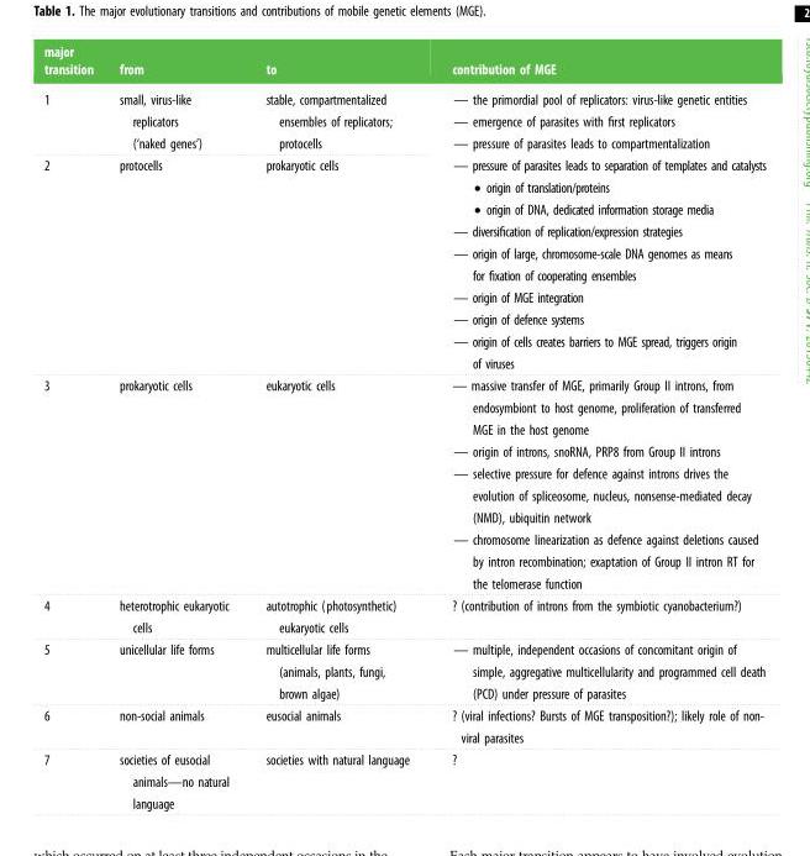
<table><thead><tr><td>major transition</td><td>from</td><td>to</td><td>contribution of MGE</td></tr></thead><tbody><tr><td>1</td><td>small, virus-like replicators (‘naked genes’)</td><td>stable, compartmentalized ensembles of replicators; protocells</td><td rowspan="2">— the primordial pool of replicators: virus-like genetic entities — emergence of parasites with first replicators — pressure of parasites leads to compartmentalization — pressure of parasites leads to separation of templates and catalysts † origin of translation/proteins † origin of DNA, dedicated information storage media — diversification of replication/expression strategies — origin of large, chromosome-scale DNA genomes as means for fixation of cooperating ensembles — origin of MGE integration — origin of defence systems — origin of cells creates barriers to MGE spread, triggers origin of viruses</td></tr><tr><td>2</td><td>protocells</td><td>prokaryotic cells</td></tr><tr><td>3</td><td>prokaryotic cells</td><td>eukaryotic cells</td><td>— massive transfer of MGE, primarily Group II introns, from endosymbiont to host genome, proliferation of transferred MGE in the host genome — origin of introns, snoRNA, PRP8 from Group II introns — selective pressure for defence against introns drives the evolution of spliceosome, nucleus, nonsense-mediated decay (NMD), ubiquitin network — chromosome linearization as defence against deletions caused by intron recombination; exaptation of Group II intron RT for the telomerase function</td></tr><tr><td>4</td><td>heterotrophic eukaryotic cells</td><td>autotrophic (photosynthetic) eukaryotic cells</td><td>? (contribution of introns from the symbiotic cyanobacterium?)</td></tr><tr><td>5</td><td>unicellular life forms</td><td>multicellular life forms (animals, plants, fungi, brown algae)</td><td>— multiple, independent occasions of concomitant origin of simple, aggregative multicellularity and programmed cell death (PCD) under pressure of parasites</td></tr><tr><td>6</td><td>non-social animals</td><td>eusocial animals</td><td>? (viral infections? Bursts of MGE transposition?); likely role of non- viral parasites</td></tr><tr><td>7</td><td>societies of eusocial animals—no natural language</td><td>societies with natural language</td><td>?</td></tr></tbody></table>